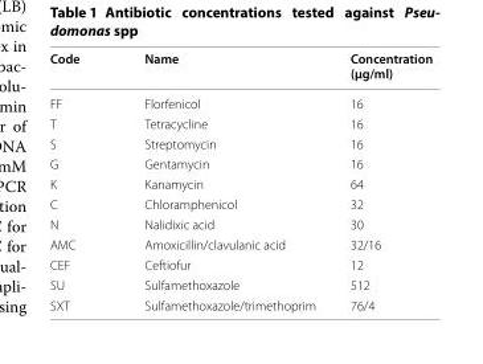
<table><thead><tr><td>Code</td><td>Name</td><td>Concentration (µg/ml)</td></tr></thead><tbody><tr><td>FF</td><td>Florfenicol</td><td>16</td></tr><tr><td>T</td><td>Tetracycline</td><td>16</td></tr><tr><td>S</td><td>Streptomycin</td><td>16</td></tr><tr><td>G</td><td>Gentamycin</td><td>16</td></tr><tr><td>K</td><td>Kanamycin</td><td>64</td></tr><tr><td>C</td><td>Chloramphenicol</td><td>32</td></tr><tr><td>N</td><td>Nalidixic acid</td><td>30</td></tr><tr><td>AMC</td><td>Amoxicillin/clavulanic acid</td><td>32/16</td></tr><tr><td>CEF</td><td>Ceftiofur</td><td>12</td></tr><tr><td>SU</td><td>Sulfamethoxazole</td><td>512</td></tr><tr><td>SXT</td><td>Sulfamethoxazole/trimethoprim</td><td>76/4</td></tr></tbody></table>